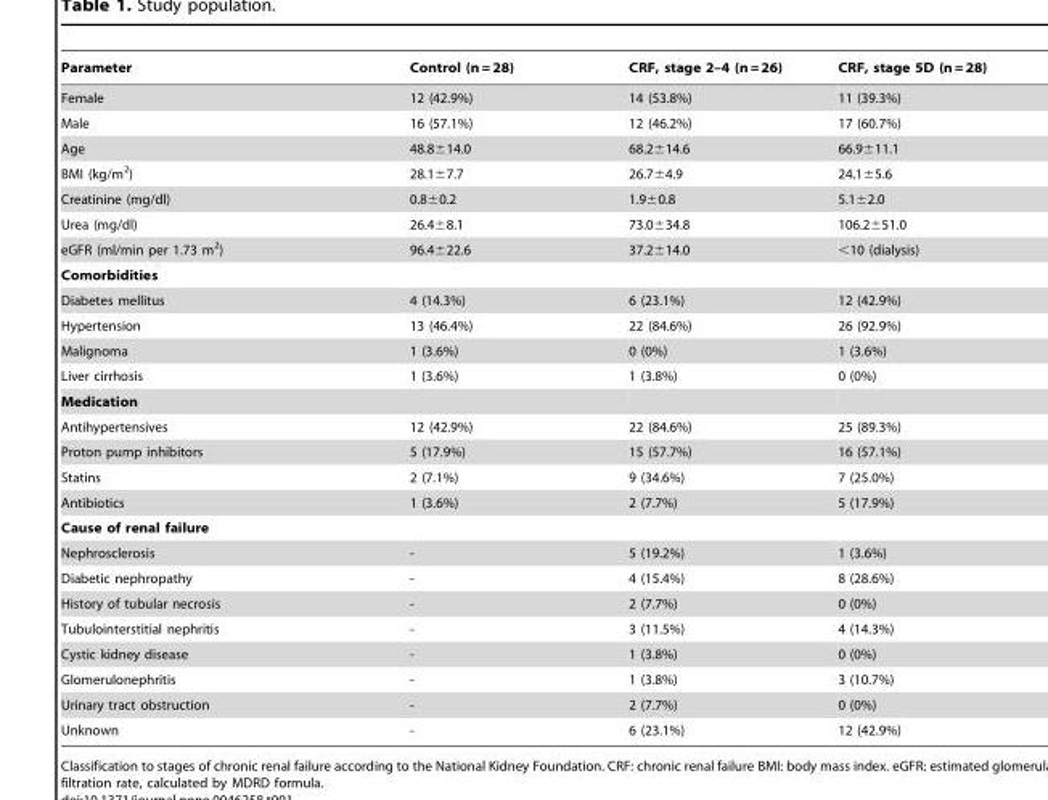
<table><thead><tr><td>Parameter</td><td>Control (n = 28)</td><td>CRF, stage 2–4 (n = 26)</td><td>CRF, stage 5D (n = 28)</td></tr></thead><tbody><tr><td>Female</td><td>12 (42.9%)</td><td>14 (53.8%)</td><td>11 (39.3%)</td></tr><tr><td>Male</td><td>16 (57.1%)</td><td>12 (46.2%)</td><td>17 (60.7%)</td></tr><tr><td>Age</td><td>48.8±14.0</td><td>68.2±14.6</td><td>66.9±11.1</td></tr><tr><td>BMI (kg/m<sup>2</sup>)</td><td>28.1±7.7</td><td>26.7±4.9</td><td>24.1±5.6</td></tr><tr><td>Creatinine (mg/dl)</td><td>0.8±0.2</td><td>1.9±0.8</td><td>5.1±2.0</td></tr><tr><td>Urea (mg/dl)</td><td>26.4±8.1</td><td>73.0±34.8</td><td>106.2±51.0</td></tr><tr><td>eGFR (ml/min per 1.73 m<sup>2</sup>)</td><td>96.4±22.6</td><td>37.2±14.0</td><td>&lt;10 (dialysis)</td></tr><tr><td colspan="4">Comorbidities</td></tr><tr><td>Diabetes mellitus</td><td>4 (14.3%)</td><td>6 (23.1%)</td><td>12 (42.9%)</td></tr><tr><td>Hypertension</td><td>13 (46.4%)</td><td>22 (84.6%)</td><td>26 (92.9%)</td></tr><tr><td>Malignoma</td><td>1 (3.6%)</td><td>0 (0%)</td><td>1 (3.6%)</td></tr><tr><td>Liver cirrhosis</td><td>1 (3.6%)</td><td>1 (3.8%)</td><td>0 (0%)</td></tr><tr><td colspan="4">Medication</td></tr><tr><td>Antihypertensives</td><td>12 (42.9%)</td><td>22 (84.6%)</td><td>25 (89.3%)</td></tr><tr><td>Proton pump inhibitors</td><td>5 (17.9%)</td><td>15 (57.7%)</td><td>16 (57.1%)</td></tr><tr><td>Statins</td><td>2 (7.1%)</td><td>9 (34.6%)</td><td>7 (25.0%)</td></tr><tr><td>Antibiotics</td><td>1 (3.6%)</td><td>2 (7.7%)</td><td>5 (17.9%)</td></tr><tr><td colspan="4">Cause of renal failure</td></tr><tr><td>Nephrosclerosis</td><td>-</td><td>5 (19.2%)</td><td>1 (3.6%)</td></tr><tr><td>Diabetic nephropathy</td><td>-</td><td>4 (15.4%)</td><td>8 (28.6%)</td></tr><tr><td>History of tubular necrosis</td><td>-</td><td>2 (7.7%)</td><td>0 (0%)</td></tr><tr><td>Tubulointerstitial nephritis</td><td>-</td><td>3 (11.5%)</td><td>4 (14.3%)</td></tr><tr><td>Cystic kidney disease</td><td>-</td><td>1 (3.8%)</td><td>0 (0%)</td></tr><tr><td>Glomerulonephritis</td><td>-</td><td>1 (3.8%)</td><td>3 (10.7%)</td></tr><tr><td>Urinary tract obstruction</td><td>-</td><td>2 (7.7%)</td><td>0 (0%)</td></tr><tr><td>Unknown</td><td>-</td><td>6 (23.1%)</td><td>12 (42.9%)</td></tr></tbody></table>